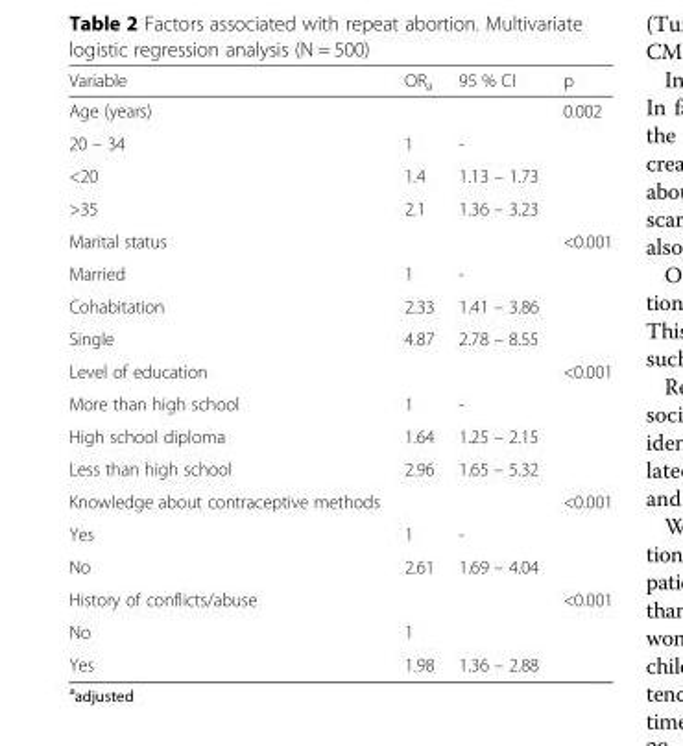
<table><thead><tr><td>Variable</td><td>OR<sub>a</sub></td><td>95 % CI</td><td>p</td></tr></thead><tbody><tr><td>Age (years)</td><td></td><td></td><td>0.002</td></tr><tr><td>20 – 34</td><td>1</td><td>-</td><td></td></tr><tr><td>&lt;20</td><td>1.4</td><td>1.13 – 1.73</td><td></td></tr><tr><td>&gt;35</td><td>2.1</td><td>1.36 – 3.23</td><td></td></tr><tr><td>Marital status</td><td></td><td></td><td>&lt;0.001</td></tr><tr><td>Married</td><td>1</td><td>-</td><td></td></tr><tr><td>Cohabitation</td><td>2.33</td><td>1.41 – 3.86</td><td></td></tr><tr><td>Single</td><td>4.87</td><td>2.78 – 8.55</td><td></td></tr><tr><td>Level of education</td><td></td><td></td><td>&lt;0.001</td></tr><tr><td>More than high school</td><td>1</td><td>-</td><td></td></tr><tr><td>High school diploma</td><td>1.64</td><td>1.25 – 2.15</td><td></td></tr><tr><td>Less than high school</td><td>2.96</td><td>1.65 – 5.32</td><td></td></tr><tr><td>Knowledge about contraceptive methods</td><td></td><td></td><td>&lt;0.001</td></tr><tr><td>Yes</td><td>1</td><td>-</td><td></td></tr><tr><td>No</td><td>2.61</td><td>1.69 – 4.04</td><td></td></tr><tr><td>History of conflicts/abuse</td><td></td><td></td><td>&lt;0.001</td></tr><tr><td>No</td><td>1</td><td></td><td></td></tr><tr><td>Yes</td><td>1.98</td><td>1.36 – 2.88</td><td></td></tr></tbody></table>